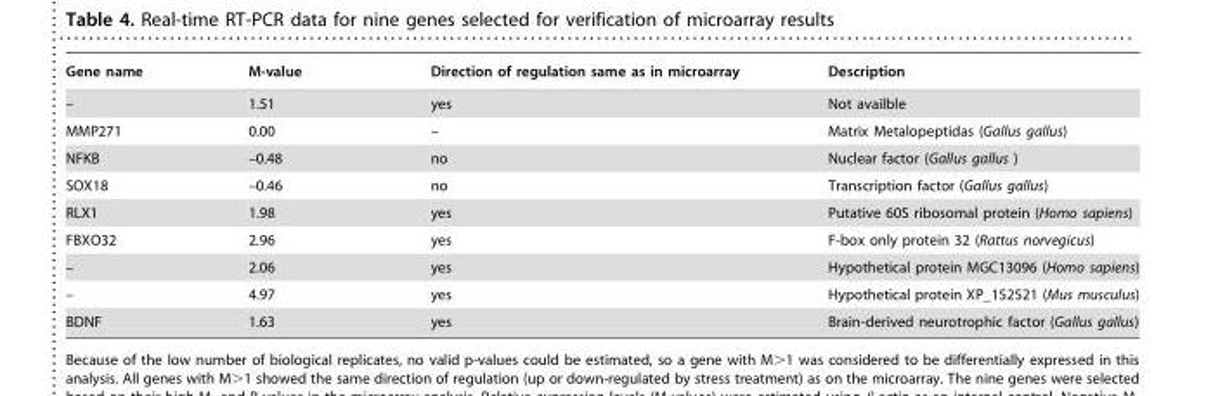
<table><thead><tr><td>Gene name</td><td>M-value</td><td>Direction of regulation same as in microarray</td><td>Description</td></tr></thead><tbody><tr><td>–</td><td>1.51</td><td>yes</td><td>Not availble</td></tr><tr><td>MMP271</td><td>0.00</td><td>–</td><td>Matrix Metalopeptidas (Gallus gallus)</td></tr><tr><td>NFKB</td><td>–0.48</td><td>no</td><td>Nuclear factor (Gallus gallus )</td></tr><tr><td>SOX18</td><td>–0.46</td><td>no</td><td>Transcription factor (Gallus gallus)</td></tr><tr><td>RLX1</td><td>1.98</td><td>yes</td><td>Putative 60S ribosomal protein (Homo sapiens)</td></tr><tr><td>FBXO32</td><td>2.96</td><td>yes</td><td>F-box only protein 32 (Rattus norvegicus)</td></tr><tr><td>–</td><td>2.06</td><td>yes</td><td>Hypothetical protein MGC13096 (Homo sapiens)</td></tr><tr><td>–</td><td>4.97</td><td>yes</td><td>Hypothetical protein XP_152521 (Mus musculus)</td></tr><tr><td>BDNF</td><td>1.63</td><td>yes</td><td>Brain-derived neurotrophic factor (Gallus gallus)</td></tr></tbody></table>